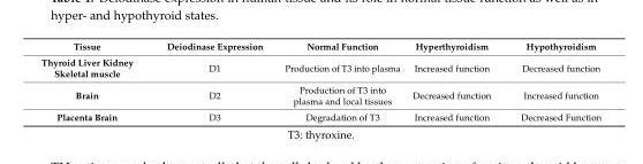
<table><thead><tr><td>Tissue</td><td>Deiodinase Expression</td><td>Normal Function</td><td>Hyperthyroidism</td><td>Hypothyroidism</td></tr></thead><tbody><tr><td>Thyroid Liver Kidney Skeletal muscle</td><td>D1</td><td>Production of T3 into plasma</td><td>Increased function</td><td>Decreased function</td></tr><tr><td>Brain</td><td>D2</td><td>Production of T3 into plasma and local tissues</td><td>Decreased function</td><td>Increased function</td></tr><tr><td>Placenta Brain</td><td>D3</td><td>Degradation of T3</td><td>Increased function</td><td>Decreased Function</td></tr></tbody></table>